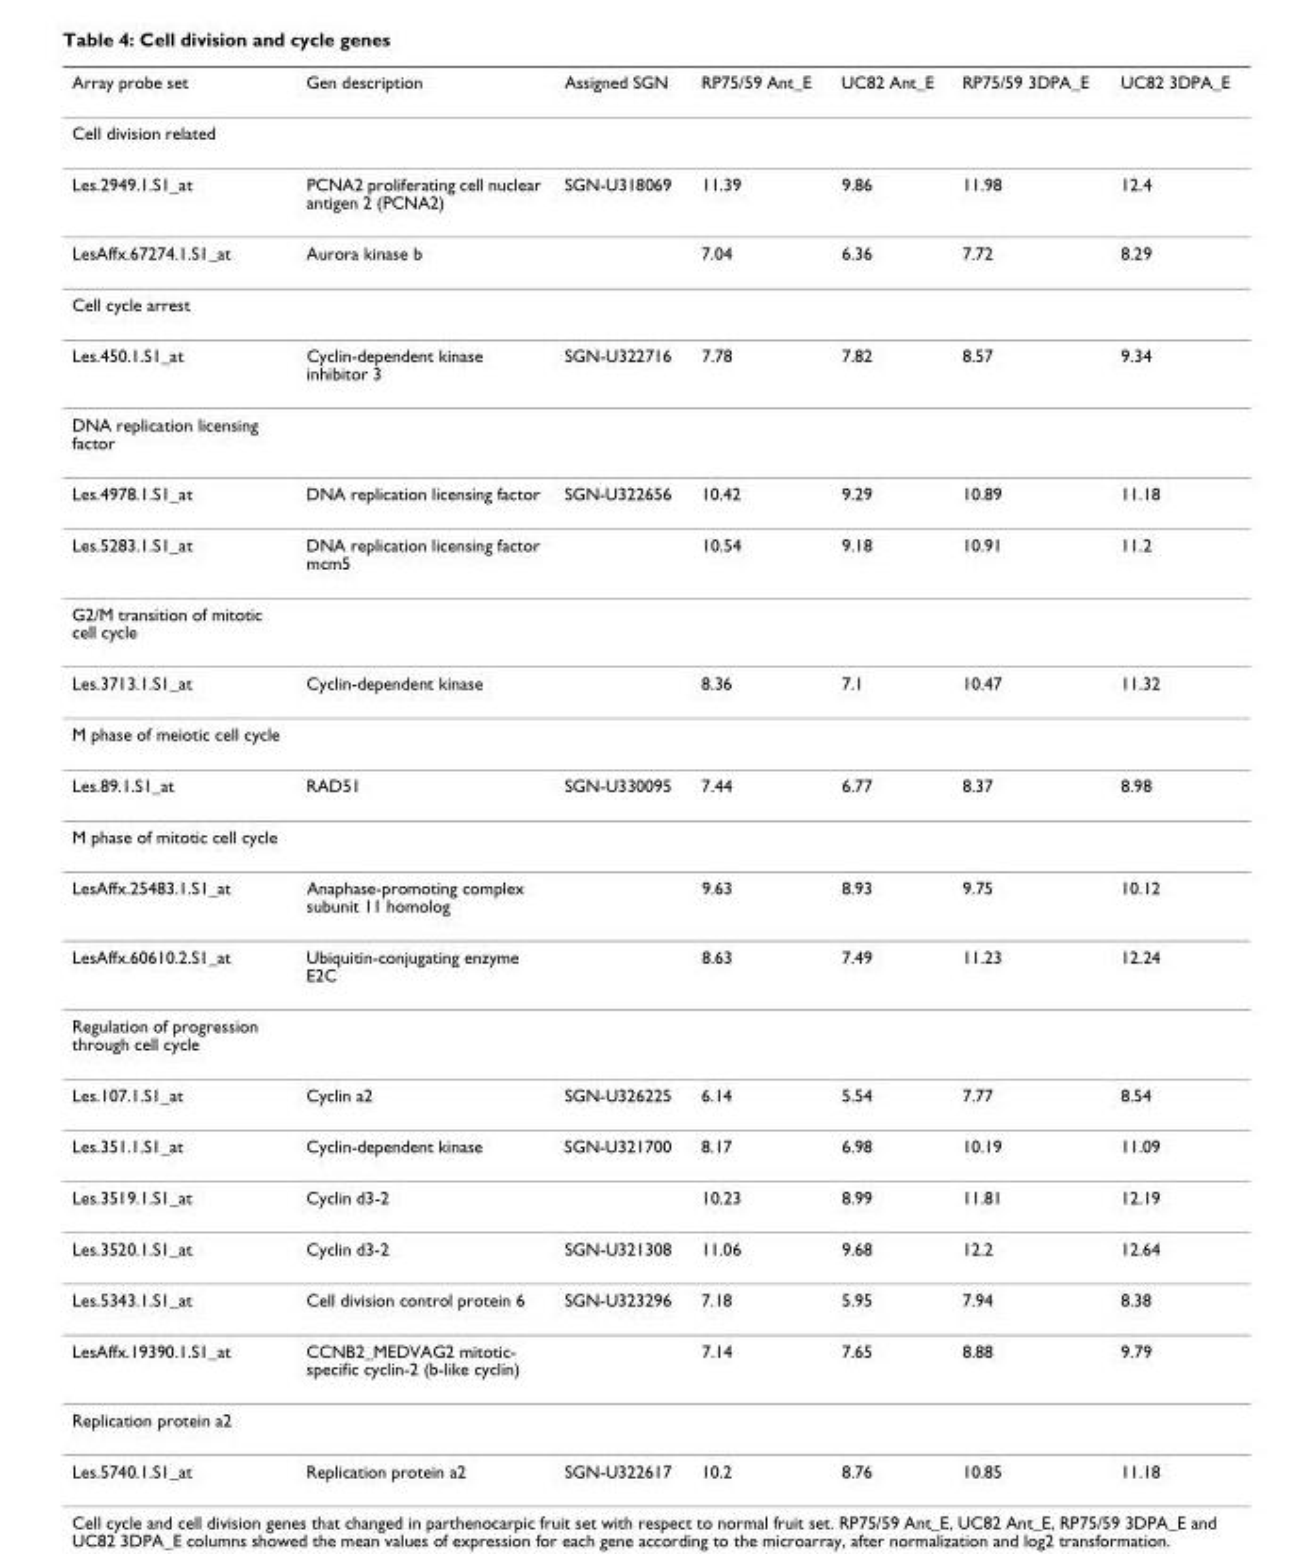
<table><thead><tr><td>Array probe set</td><td>Gen description</td><td>Assigned SGN</td><td>RP75/59 Ant_E</td><td>UC82 Ant_E</td><td>RP75/59 3DPA_E</td><td>UC82 3DPA_E</td></tr></thead><tbody><tr><td colspan="7">Cell division related</td></tr><tr><td>Les.2949.1.S1_at</td><td>PCNA2 proliferating cell nuclear antigen 2 (PCNA2)</td><td>SGN-U318069</td><td>11.39</td><td>9.86</td><td>11.98</td><td>12.4</td></tr><tr><td>LesAffx.67274.1.S1_at</td><td>Aurora kinase b</td><td></td><td>7.04</td><td>6.36</td><td>7.72</td><td>8.29</td></tr><tr><td colspan="7">Cell cycle arrest</td></tr><tr><td>Les.450.1.S1_at</td><td>Cyclin-dependent kinase inhibitor 3</td><td>SGN-U322716</td><td>7.78</td><td>7.82</td><td>8.57</td><td>9.34</td></tr><tr><td colspan="7">DNA replication licensing factor</td></tr><tr><td>Les.4978.1.S1_at</td><td>DNA replication licensing factor</td><td>SGN-U322656</td><td>10.42</td><td>9.29</td><td>10.89</td><td>11.18</td></tr><tr><td>Les.5283.1.S1_at</td><td>DNA replication licensing factor mcm5</td><td></td><td>10.54</td><td>9.18</td><td>10.91</td><td>11.2</td></tr><tr><td colspan="7">G2/M transition of mitotic cell cycle</td></tr><tr><td>Les.3713.1.S1_at</td><td>Cyclin-dependent kinase</td><td></td><td>8.36</td><td>7.1</td><td>10.47</td><td>11.32</td></tr><tr><td colspan="7">M phase of meiotic cell cycle</td></tr><tr><td>Les.89.1.S1_at</td><td>RAD51</td><td>SGN-U330095</td><td>7.44</td><td>6.77</td><td>8.37</td><td>8.98</td></tr><tr><td colspan="7">M phase of mitotic cell cycle</td></tr><tr><td>LesAffx.25483.1.S1_at</td><td>Anaphase-promoting complex subunit 11 homolog</td><td></td><td>9.63</td><td>8.93</td><td>9.75</td><td>10.12</td></tr><tr><td>LesAffx.60610.2.S1_at</td><td>Ubiquitin-conjugating enzyme E2C</td><td></td><td>8.63</td><td>7.49</td><td>11.23</td><td>12.24</td></tr><tr><td colspan="7">Regulation of progression through cell cycle</td></tr><tr><td>Les.107.1.S1_at</td><td>Cyclin a2</td><td>SGN-U326225</td><td>6.14</td><td>5.54</td><td>7.77</td><td>8.54</td></tr><tr><td>Les.351.1.S1_at</td><td>Cyclin-dependent kinase</td><td>SGN-U321700</td><td>8.17</td><td>6.98</td><td>10.19</td><td>11.09</td></tr><tr><td>Les.3519.1.S1_at</td><td>Cyclin d3-2</td><td></td><td>10.23</td><td>8.99</td><td>11.81</td><td>12.19</td></tr><tr><td>Les.3520.1.S1_at</td><td>Cyclin d3-2</td><td>SGN-U321308</td><td>11.06</td><td>9.68</td><td>12.2</td><td>12.64</td></tr><tr><td>Les.5343.1.S1_at</td><td>Cell division control protein 6</td><td>SGN-U323296</td><td>7.18</td><td>5.95</td><td>7.94</td><td>8.38</td></tr><tr><td>LesAffx.19390.1.S1_at</td><td>CCNB2_MEDVAG2 mitotic- specific cyclin-2 (b-like cyclin)</td><td></td><td>7.14</td><td>7.65</td><td>8.88</td><td>9.79</td></tr><tr><td colspan="7">Replication protein a2</td></tr><tr><td>Les.5740.1.S1_at</td><td>Replication protein a2</td><td>SGN-U322617</td><td>10.2</td><td>8.76</td><td>10.85</td><td>11.18</td></tr></tbody></table>